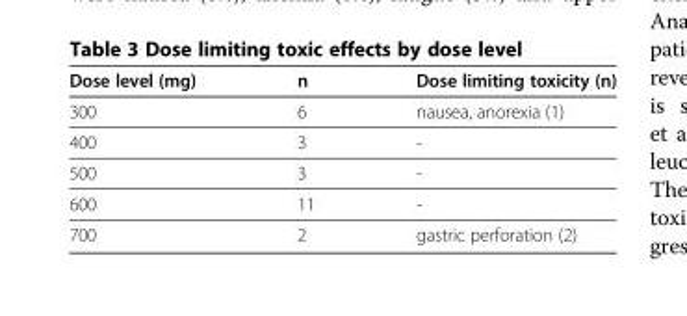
<table><thead><tr><td>Dose level (mg)</td><td>n</td><td>Dose limiting toxicity (n)</td></tr></thead><tbody><tr><td>300</td><td>6</td><td>nausea, anorexia (1)</td></tr><tr><td>400</td><td>3</td><td>-</td></tr><tr><td>500</td><td>3</td><td>-</td></tr><tr><td>600</td><td>11</td><td>-</td></tr><tr><td>700</td><td>2</td><td>gastric perforation (2)</td></tr></tbody></table>